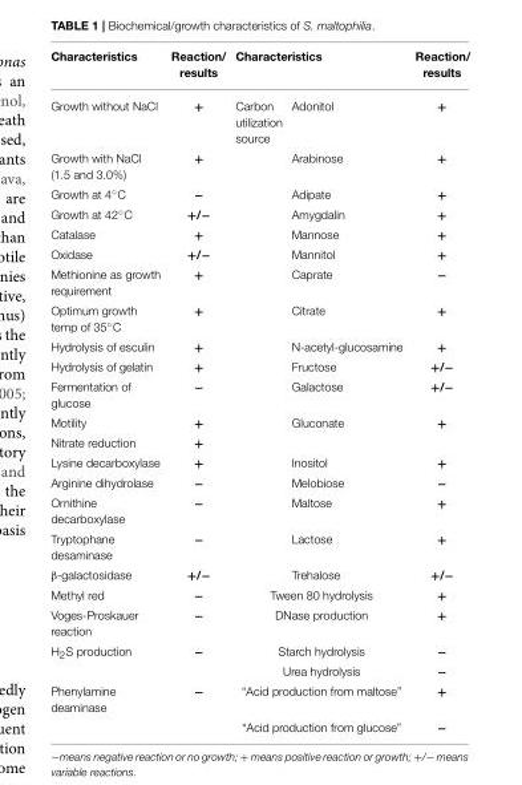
<table><thead><tr><td rowspan="2">Characteristics Growth without NaCl</td><td rowspan="2">Reaction/ results +</td><td colspan="2">Characteristics</td><td rowspan="2">Reaction/ results +</td></tr><tr><td>Carbon utilization source</td><td>Adonitol</td></tr></thead><tbody><tr><td>Growth with NaCl (1.5 and 3.0%)</td><td>+</td><td></td><td>Arabinose</td><td>+</td></tr><tr><td>Growth at 4◦C</td><td>−</td><td></td><td>Adipate</td><td>+</td></tr><tr><td>Growth at 42◦C</td><td>+/−</td><td></td><td>Amygdalin</td><td>+</td></tr><tr><td>Catalase</td><td>+</td><td></td><td>Mannose</td><td>+</td></tr><tr><td>Oxidase</td><td>+/−</td><td></td><td>Mannitol</td><td>+</td></tr><tr><td>Methionine as growth requirement</td><td>+</td><td></td><td>Caprate</td><td>−</td></tr><tr><td>Optimum growth temp of 35◦C</td><td>+</td><td></td><td>Citrate</td><td>+</td></tr><tr><td>Hydrolysis of esculin</td><td>+</td><td></td><td>N-acetyl-glucosamine</td><td>+</td></tr><tr><td>Hydrolysis of gelatin</td><td>+</td><td></td><td>Fructose</td><td>+/−</td></tr><tr><td>Fermentation of glucose</td><td>−</td><td></td><td>Galactose</td><td>+/−</td></tr><tr><td>Motility</td><td>+</td><td></td><td>Gluconate</td><td>+</td></tr><tr><td>Nitrate reduction</td><td>+</td><td></td><td></td><td></td></tr><tr><td>Lysine decarboxylase</td><td>+</td><td></td><td>Inositol</td><td>+</td></tr><tr><td>Arginine dihydrolase</td><td>−</td><td></td><td>Melobiose</td><td>−</td></tr><tr><td>Ornithine decarboxylase</td><td>−</td><td></td><td>Maltose</td><td>+</td></tr><tr><td>Tryptophane desaminase</td><td>−</td><td></td><td>Lactose</td><td>+</td></tr><tr><td>β-galactosidase</td><td>+/−</td><td></td><td>Trehalose</td><td>+/−</td></tr><tr><td>Methyl red</td><td>−</td><td colspan="2">Tween 80 hydrolysis</td><td>+</td></tr><tr><td>Voges-Proskauer reaction</td><td>−</td><td colspan="2">DNase production</td><td>+</td></tr><tr><td rowspan="2">H<sub>2</sub>S production</td><td>−</td><td colspan="2">Starch hydrolysis</td><td>−</td></tr><tr><td></td><td colspan="2">Urea hydrolysis</td><td>−</td></tr><tr><td rowspan="2">Phenylamine deaminase</td><td>−</td><td colspan="2">“Acid production from maltose”</td><td>+</td></tr><tr><td></td><td colspan="2">“Acid production from glucose”</td><td>−</td></tr></tbody></table>